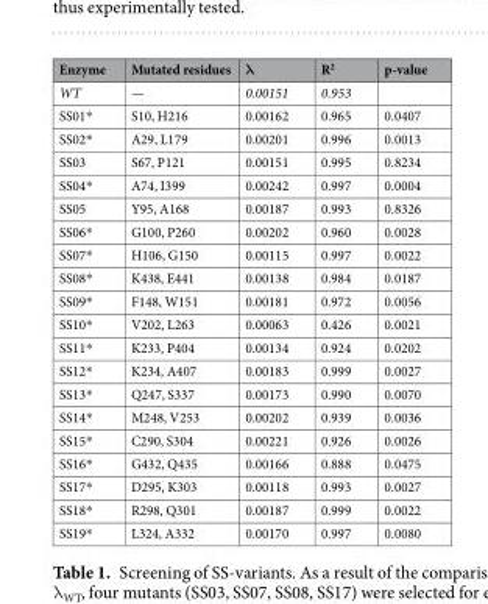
<table><thead><tr><td>Enzyme</td><td>Mutated residues</td><td>λ</td><td>R<sup>2</sup></td><td>p-value</td></tr></thead><tbody><tr><td>WT</td><td>—</td><td>0.00151</td><td>0.953</td><td></td></tr><tr><td>SS01*</td><td>S10, H216</td><td>0.00162</td><td>0.965</td><td>0.0407</td></tr><tr><td>SS02*</td><td>A29, L179</td><td>0.00201</td><td>0.996</td><td>0.0013</td></tr><tr><td>SS03</td><td>S67, P121</td><td>0.00151</td><td>0.995</td><td>0.8234</td></tr><tr><td>SS04*</td><td>A74, I399</td><td>0.00242</td><td>0.997</td><td>0.0004</td></tr><tr><td>SS05</td><td>Y95, A168</td><td>0.00187</td><td>0.993</td><td>0.8326</td></tr><tr><td>SS06*</td><td>G100, P260</td><td>0.00202</td><td>0.960</td><td>0.0028</td></tr><tr><td>SS07*</td><td>H106, G150</td><td>0.00115</td><td>0.997</td><td>0.0022</td></tr><tr><td>SS08*</td><td>K438, E441</td><td>0.00138</td><td>0.984</td><td>0.0187</td></tr><tr><td>SS09*</td><td>F148, W151</td><td>0.00181</td><td>0.972</td><td>0.0056</td></tr><tr><td>SS10*</td><td>V202, L263</td><td>0.00063</td><td>0.426</td><td>0.0021</td></tr><tr><td>SS11*</td><td>K233, P404</td><td>0.00134</td><td>0.924</td><td>0.0202</td></tr><tr><td>SS12*</td><td>K234, A407</td><td>0.00183</td><td>0.999</td><td>0.0027</td></tr><tr><td>SS13*</td><td>Q247, S337</td><td>0.00173</td><td>0.990</td><td>0.0070</td></tr><tr><td>SS14*</td><td>M248, V253</td><td>0.00202</td><td>0.939</td><td>0.0036</td></tr><tr><td>SS15*</td><td>C290, S304</td><td>0.00221</td><td>0.926</td><td>0.0026</td></tr><tr><td>SS16*</td><td>G432, Q435</td><td>0.00166</td><td>0.888</td><td>0.0475</td></tr><tr><td>SS17*</td><td>D295, K303</td><td>0.00118</td><td>0.993</td><td>0.0027</td></tr><tr><td>SS18*</td><td>R298, Q301</td><td>0.00187</td><td>0.999</td><td>0.0022</td></tr><tr><td>SS19*</td><td>L324, A332</td><td>0.00170</td><td>0.997</td><td>0.0080</td></tr></tbody></table>